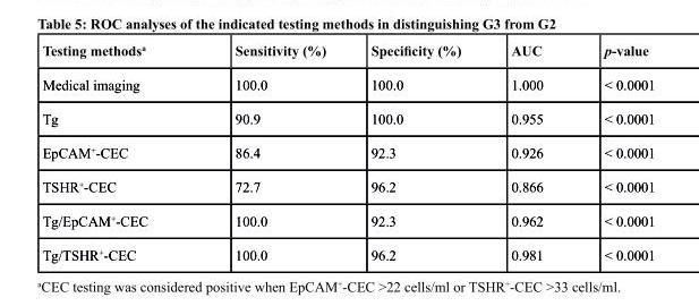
<table><thead><tr><td>testing methods<sup>a</sup></td><td>sensitivity (%)</td><td>Specificity (%)</td><td>AUc</td><td>p-value</td></tr></thead><tbody><tr><td>Medical imaging</td><td>100.0</td><td>100.0</td><td>1.000</td><td>&lt; 0.0001</td></tr><tr><td>Tg</td><td>90.9</td><td>100.0</td><td>0.955</td><td>&lt; 0.0001</td></tr><tr><td>EpCAM<sup>+</sup>-CEC</td><td>86.4</td><td>92.3</td><td>0.926</td><td>&lt; 0.0001</td></tr><tr><td>TSHR<sup>+</sup>-CEC</td><td>72.7</td><td>96.2</td><td>0.866</td><td>&lt; 0.0001</td></tr><tr><td>Tg/EpCAM<sup>+</sup>-CEC</td><td>100.0</td><td>92.3</td><td>0.962</td><td>&lt; 0.0001</td></tr><tr><td>Tg/TSHR<sup>+</sup>-CEC</td><td>100.0</td><td>96.2</td><td>0.981</td><td>&lt; 0.0001</td></tr></tbody></table>